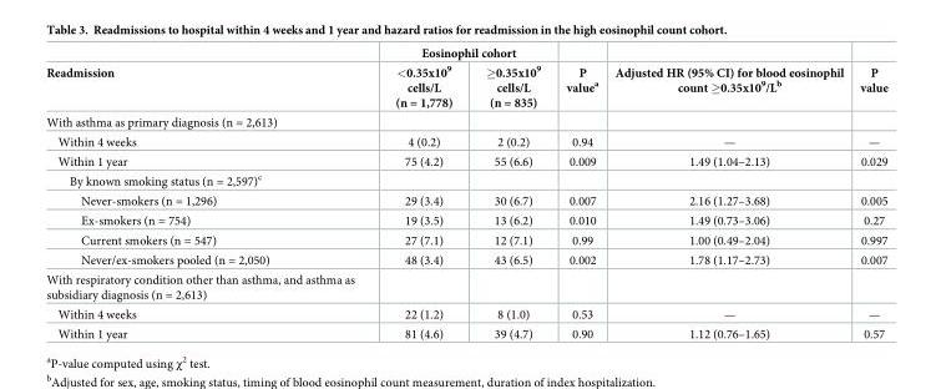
<table><thead><tr><td rowspan="2">Readmission</td><td colspan="2">Eosinophil cohort</td><td rowspan="2">P value<sup>a</sup></td><td rowspan="2">Adjusted HR (95% CI) for blood eosinophil count ≥0.35x10<sup>9</sup>/L<sup>b</sup></td><td rowspan="2">P value</td></tr><tr><td>&lt;0.35x10<sup>9</sup> cells/L (n = 1,778)</td><td>≥0.35x10<sup>9</sup> cells/L (n = 835)</td></tr></thead><tbody><tr><td colspan="6">With asthma as primary diagnosis (n = 2,613)</td></tr><tr><td>Within 4 weeks</td><td>4 (0.2)</td><td>2 (0.2)</td><td>0.94</td><td>—</td><td>—</td></tr><tr><td>Within 1 year</td><td>75 (4.2)</td><td>55 (6.6)</td><td>0.009</td><td>1.49 (1.04–2.13)</td><td>0.029</td></tr><tr><td colspan="6">By known smoking status (n = 2,597)<sup>c</sup></td></tr><tr><td>Never-smokers (n = 1,296)</td><td>29 (3.4)</td><td>30 (6.7)</td><td>0.007</td><td>2.16 (1.27–3.68)</td><td>0.005</td></tr><tr><td>Ex-smokers (n = 754)</td><td>19 (3.5)</td><td>13 (6.2)</td><td>0.010</td><td>1.49 (0.73–3.06)</td><td>0.27</td></tr><tr><td>Current smokers (n = 547)</td><td>27 (7.1)</td><td>12 (7.1)</td><td>0.99</td><td>1.00 (0.49–2.04)</td><td>0.997</td></tr><tr><td>Never/ex-smokers pooled (n = 2,050)</td><td>48 (3.4)</td><td>43 (6.5)</td><td>0.002</td><td>1.78 (1.17–2.73)</td><td>0.007</td></tr><tr><td colspan="6">With respiratory condition other than asthma, and asthma as subsidiary diagnosis (n = 2,613)</td></tr><tr><td>Within 4 weeks</td><td>22 (1.2)</td><td>8 (1.0)</td><td>0.53</td><td>—</td><td>—</td></tr><tr><td>Within 1 year</td><td>81 (4.6)</td><td>39 (4.7)</td><td>0.90</td><td>1.12 (0.76–1.65)</td><td>0.57</td></tr></tbody></table>